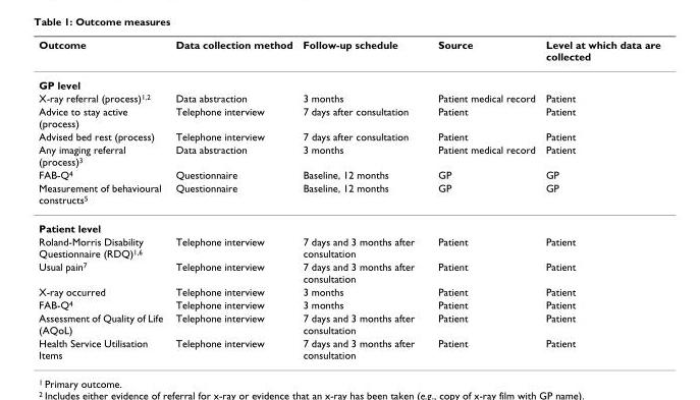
<table><thead><tr><td>Outcome</td><td>Data collection method</td><td>Follow-up schedule</td><td>Source</td><td>Level at which data are collected</td></tr></thead><tbody><tr><td colspan="5">GP level</td></tr><tr><td>X-ray referral (process)<sup>1,2</sup></td><td>Data abstraction</td><td>3 months</td><td>Patient medical record</td><td>Patient</td></tr><tr><td>Advice to stay active (process)</td><td>Telephone interview</td><td>7 days after consultation</td><td>Patient</td><td>Patient</td></tr><tr><td>Advised bed rest (process)</td><td>Telephone interview</td><td>7 days after consultation</td><td>Patient</td><td>Patient</td></tr><tr><td>Any imaging referral (process)<sup>3</sup></td><td>Data abstraction</td><td>3 months</td><td>Patient medical record</td><td>Patient</td></tr><tr><td>FAB-Q<sup>4</sup></td><td>Questionnaire</td><td>Baseline, 12 months</td><td>GP</td><td>GP</td></tr><tr><td>Measurement of behavioural constructs<sup>5</sup></td><td>Questionnaire</td><td>Baseline, 12 months</td><td>GP</td><td>GP</td></tr><tr><td colspan="5">Patient level</td></tr><tr><td>Roland-Morris Disability Questionnaire (RDQ)<sup>1,6</sup></td><td>Telephone interview</td><td>7 days and 3 months after consultation</td><td>Patient</td><td>Patient</td></tr><tr><td>Usual pain<sup>7</sup></td><td>Telephone interview</td><td>7 days and 3 months after consultation</td><td>Patient</td><td>Patient</td></tr><tr><td>X-ray occurred</td><td>Telephone interview</td><td>3 months</td><td>Patient</td><td>Patient</td></tr><tr><td>FAB-Q<sup>4</sup></td><td>Telephone interview</td><td>3 months</td><td>Patient</td><td>Patient</td></tr><tr><td>Assessment of Quality of Life (AQoL)</td><td>Telephone interview</td><td>7 days and 3 months after consultation</td><td>Patient</td><td>Patient</td></tr><tr><td>Health Service Utilisation Items</td><td>Telephone interview</td><td>7 days and 3 months after consultation</td><td>Patient</td><td>Patient</td></tr></tbody></table>